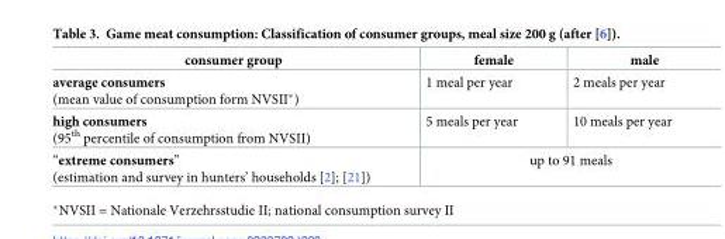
<table><thead><tr><td>consumer group</td><td>female</td><td>male</td></tr></thead><tbody><tr><td>average consumers (mean value of consumption form NVSII*)</td><td>1 meal per year</td><td>2 meals per year</td></tr><tr><td>high consumers (95<sup>th</sup> percentile of consumption from NVSII)</td><td>5 meals per year</td><td>10 meals per year</td></tr><tr><td>“extreme consumers” (estimation and survey in hunters’ households [2]; [21])</td><td colspan="2">up to 91 meals</td></tr></tbody></table>